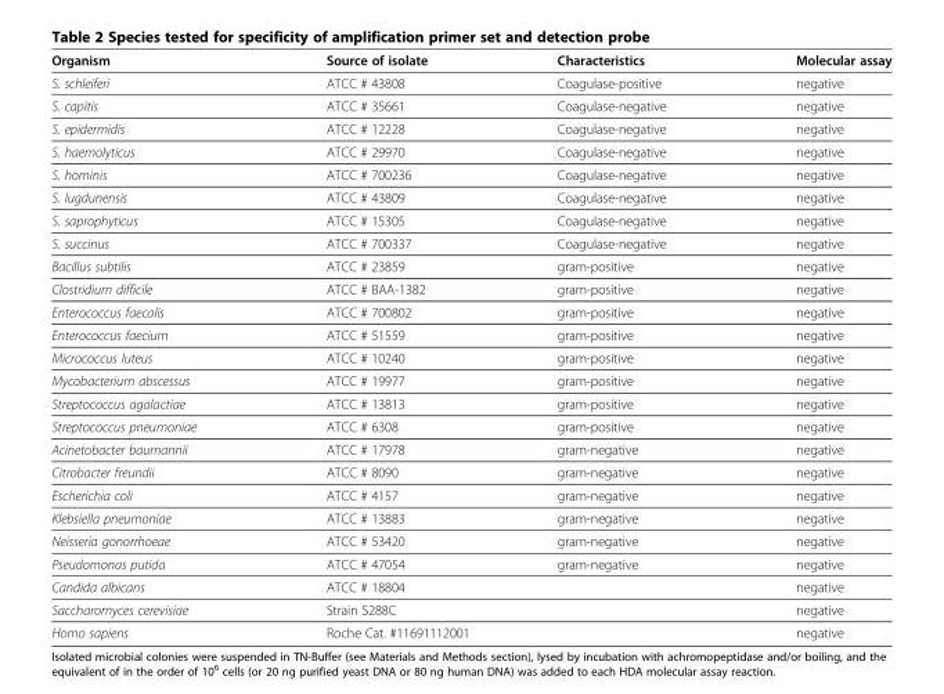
<table><thead><tr><td>Organism</td><td>Source of isolate</td><td>Characteristics</td><td>Molecular assay</td></tr></thead><tbody><tr><td>S. schleiferi</td><td>ATCC # 43808</td><td>Coagulase-positive</td><td>negative</td></tr><tr><td>S. capitis</td><td>ATCC # 35661</td><td>Coagulase-negative</td><td>negative</td></tr><tr><td>S. epidermidis</td><td>ATCC # 12228</td><td>Coagulase-negative</td><td>negative</td></tr><tr><td>S. haemolyticus</td><td>ATCC # 29970</td><td>Coagulase-negative</td><td>negative</td></tr><tr><td>S. hominis</td><td>ATCC # 700236</td><td>Coagulase-negative</td><td>negative</td></tr><tr><td>S. lugdunensis</td><td>ATCC # 43809</td><td>Coagulase-negative</td><td>negative</td></tr><tr><td>S. saprophyticus</td><td>ATCC # 15305</td><td>Coagulase-negative</td><td>negative</td></tr><tr><td>S. succinus</td><td>ATCC # 700337</td><td>Coagulase-negative</td><td>negative</td></tr><tr><td>Bacillus subtilis</td><td>ATCC # 23859</td><td>gram-positive</td><td>negative</td></tr><tr><td>Clostridium difficile</td><td>ATCC # BAA-1382</td><td>gram-positive</td><td>negative</td></tr><tr><td>Enterococcus faecalis</td><td>ATCC # 700802</td><td>gram-positive</td><td>negative</td></tr><tr><td>Enterococcus faecium</td><td>ATCC # 51559</td><td>gram-positive</td><td>negative</td></tr><tr><td>Micrococcus luteus</td><td>ATCC # 10240</td><td>gram-positive</td><td>negative</td></tr><tr><td>Mycobacterium abscessus</td><td>ATCC # 19977</td><td>gram-positive</td><td>negative</td></tr><tr><td>Streptococcus agalactiae</td><td>ATCC # 13813</td><td>gram-positive</td><td>negative</td></tr><tr><td>Streptococcus pneumoniae</td><td>ATCC # 6308</td><td>gram-positive</td><td>negative</td></tr><tr><td>Acinetobacter baumannii</td><td>ATCC # 17978</td><td>gram-negative</td><td>negative</td></tr><tr><td>Citrobacter freundii</td><td>ATCC # 8090</td><td>gram-negative</td><td>negative</td></tr><tr><td>Escherichia coli</td><td>ATCC # 4157</td><td>gram-negative</td><td>negative</td></tr><tr><td>Klebsiella pneumoniae</td><td>ATCC # 13883</td><td>gram-negative</td><td>negative</td></tr><tr><td>Neisseria gonorrhoeae</td><td>ATCC # 53420</td><td>gram-negative</td><td>negative</td></tr><tr><td>Pseudomonas putida</td><td>ATCC # 47054</td><td>gram-negative</td><td>negative</td></tr><tr><td>Candida albicans</td><td>ATCC # 18804</td><td></td><td>negative</td></tr><tr><td>Saccharomyces cerevisiae</td><td>Strain S288C</td><td></td><td>negative</td></tr><tr><td>Homo sapiens</td><td colspan="2">Roche Cat. #11691112001</td><td>negative</td></tr></tbody></table>